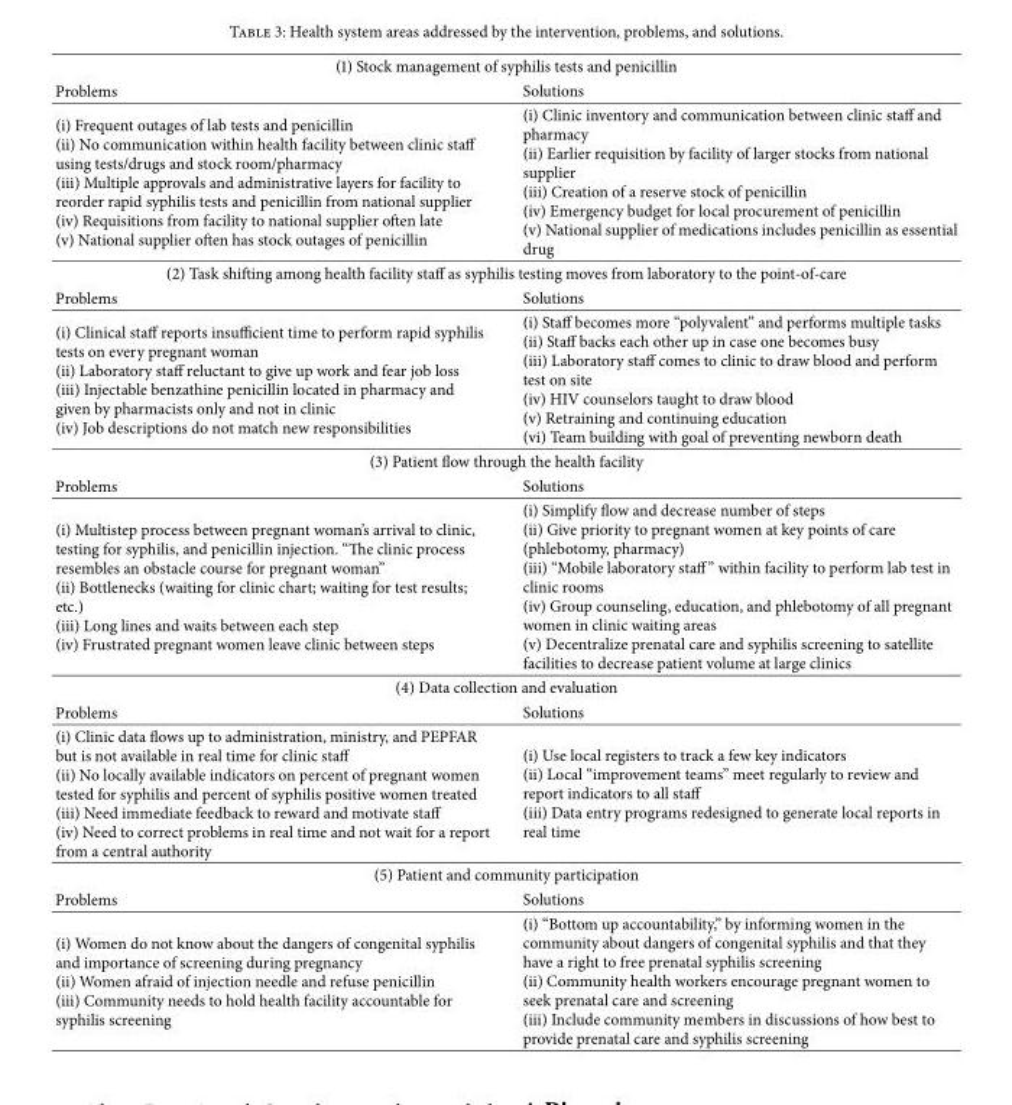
<table><thead><tr><td colspan="2">(1) Stock management of syphilis tests and penicillin</td></tr><tr><td>Problems</td><td>Solutions</td></tr></thead><tbody><tr><td>(i) Frequent outages of lab tests and penicillin (ii) No communication within health facility between clinic staff using tests/drugs and stock room/pharmacy (iii) Multiple approvals and administrative layers for facility to reorder rapid syphilis tests and penicillin from national supplier (iv) Requisitions from facility to national supplier often late (v) National supplier often has stock outages of penicillin</td><td>(i) Clinic inventory and communication between clinic staff and pharmacy (ii) Earlier requisition by facility of larger stocks from national supplier (iii) Creation of a reserve stock of penicillin (iv) Emergency budget for local procurement of penicillin (v) National supplier of medications includes penicillin as essential drug</td></tr><tr><td colspan="2">(2) Task shifting among health facility staff as syphilis testing moves from laboratory to the point-of-care</td></tr><tr><td>Problems</td><td>Solutions</td></tr><tr><td>(i) Clinical staff reports insufficient time to perform rapid syphilis tests on every pregnant woman (ii) Laboratory staff reluctant to give up work and fear job loss (iii) Injectable benzathine penicillin located in pharmacy and given by pharmacists only and not in clinic (iv) Job descriptions do not match new responsibilities</td><td>(i) Staff becomes more “polyvalent” and performs multiple tasks (ii) Staff backs each other up in case one becomes busy (iii) Laboratory staff comes to clinic to draw blood and perform test on site (iv) HIV counselors taught to draw blood (v) Retraining and continuing education (vi) Team building with goal of preventing newborn death</td></tr><tr><td colspan="2">(3) Patient flow through the health facility</td></tr><tr><td>Problems</td><td>Solutions</td></tr><tr><td>(i) Multistep process between pregnant woman’s arrival to clinic, testing for syphilis, and penicillin injection. “The clinic process resembles an obstacle course for pregnant woman” (ii) Bottlenecks (waiting for clinic chart; waiting for test results; etc.) (iii) Long lines and waits between each step (iv) Frustrated pregnant women leave clinic between steps</td><td>(i) Simplify flow and decrease number of steps (ii) Give priority to pregnant women at key points of care (phlebotomy, pharmacy) (iii) “Mobile laboratory staff” within facility to perform lab test in clinic rooms (iv) Group counseling, education, and phlebotomy of all pregnant women in clinic waiting areas (v) Decentralize prenatal care and syphilis screening to satellite facilities to decrease patient volume at large clinics</td></tr><tr><td colspan="2">(4) Data collection and evaluation</td></tr><tr><td>Problems</td><td>Solutions</td></tr><tr><td>(i) Clinic data flows up to administration, ministry, and PEPFAR but is not available in real time for clinic staff (ii) No locally available indicators on percent of pregnant women tested for syphilis and percent of syphilis positive women treated (iii) Need immediate feedback to reward and motivate staff (iv) Need to correct problems in real time and not wait for a report from a central authority</td><td>(i) Use local registers to track a few key indicators (ii) Local “improvement teams” meet regularly to review and report indicators to all staff (iii) Data entry programs redesigned to generate local reports in real time</td></tr><tr><td colspan="2">(5) Patient and community participation</td></tr><tr><td>Problems</td><td>Solutions</td></tr><tr><td>(i) Women do not know about the dangers of congenital syphilis and importance of screening during pregnancy (ii) Women afraid of injection needle and refuse penicillin (iii) Community needs to hold health facility accountable for syphilis screening</td><td>(i) “Bottom up accountability,” by informing women in the community about dangers of congenital syphilis and that they have a right to free prenatal syphilis screening (ii) Community health workers encourage pregnant women to seek prenatal care and screening (iii) Include community members in discussions of how best to provide prenatal care and syphilis screening</td></tr></tbody></table>